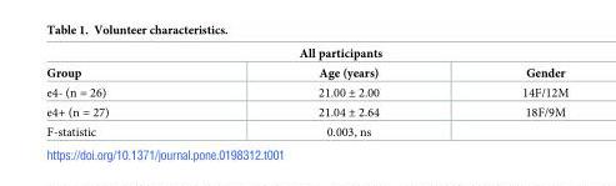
<table><thead><tr><td colspan="3">All participants</td></tr><tr><td>Group</td><td>Age (years)</td><td>Gender</td></tr></thead><tbody><tr><td>e4- (n = 26)</td><td>21.00 ± 2.00</td><td>14F/12M</td></tr><tr><td>e4+ (n = 27)</td><td>21.04 ± 2.64</td><td>18F/9M</td></tr><tr><td>F-statistic</td><td>0.003, ns</td><td></td></tr></tbody></table>